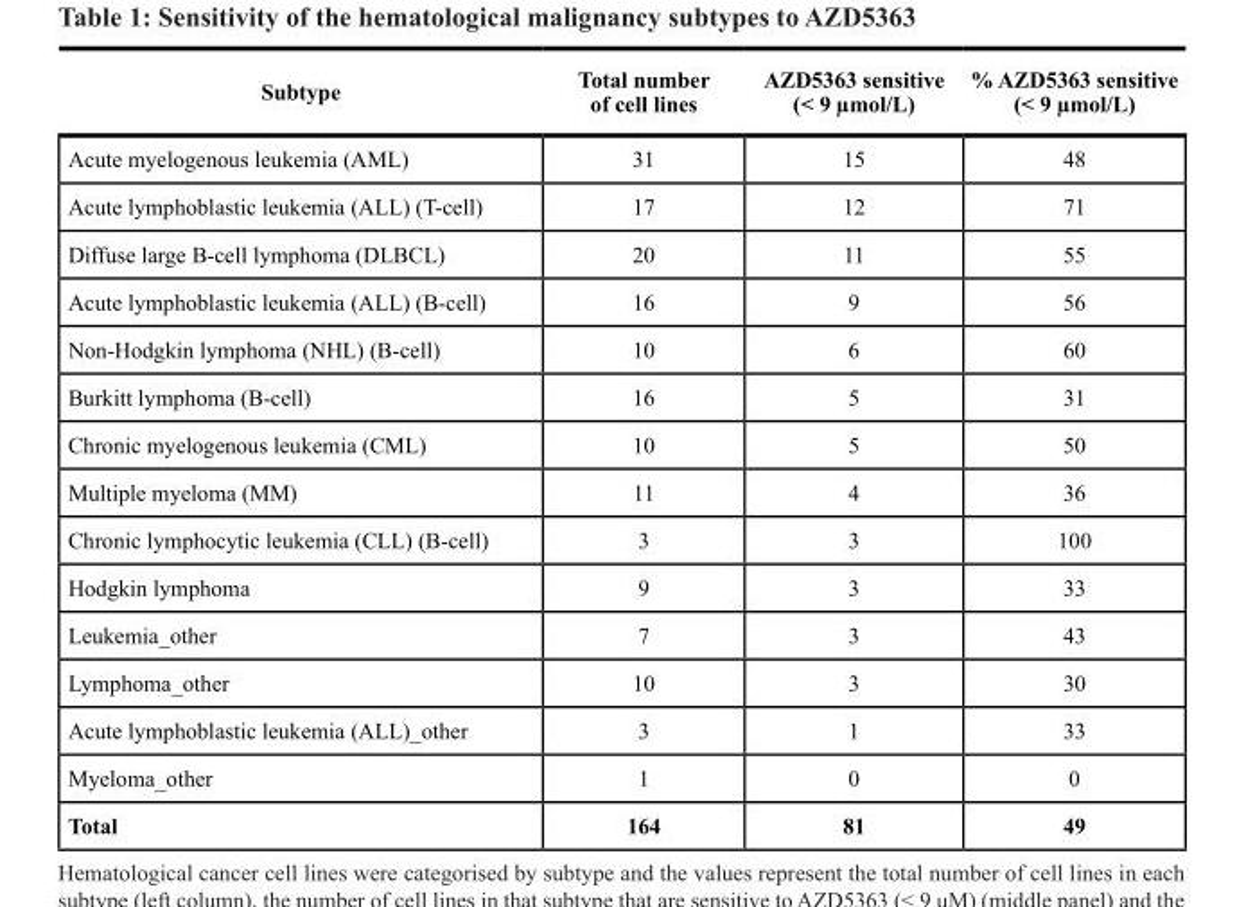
<table><thead><tr><td>Subtype</td><td>Total number of cell lines</td><td>AZD5363 sensitive (&lt; 9 µmol/L)</td><td>% AZD5363 sensitive (&lt; 9 µmol/L)</td></tr></thead><tbody><tr><td>Acute myelogenous leukemia (AML)</td><td>31</td><td>15</td><td>48</td></tr><tr><td>Acute lymphoblastic leukemia (ALL) (T-cell)</td><td>17</td><td>12</td><td>71</td></tr><tr><td>Diffuse large B-cell lymphoma (DLBCL)</td><td>20</td><td>11</td><td>55</td></tr><tr><td>Acute lymphoblastic leukemia (ALL) (B-cell)</td><td>16</td><td>9</td><td>56</td></tr><tr><td>Non-Hodgkin lymphoma (NHL) (B-cell)</td><td>10</td><td>6</td><td>60</td></tr><tr><td>Burkitt lymphoma (B-cell)</td><td>16</td><td>5</td><td>31</td></tr><tr><td>Chronic myelogenous leukemia (CML)</td><td>10</td><td>5</td><td>50</td></tr><tr><td>Multiple myeloma (MM)</td><td>11</td><td>4</td><td>36</td></tr><tr><td>Chronic lymphocytic leukemia (CLL) (B-cell)</td><td>3</td><td>3</td><td>100</td></tr><tr><td>Hodgkin lymphoma</td><td>9</td><td>3</td><td>33</td></tr><tr><td>Leukemia_other</td><td>7</td><td>3</td><td>43</td></tr><tr><td>Lymphoma_other</td><td>10</td><td>3</td><td>30</td></tr><tr><td>Acute lymphoblastic leukemia (ALL)_other</td><td>3</td><td>1</td><td>33</td></tr><tr><td>Myeloma_other</td><td>1</td><td>0</td><td>0</td></tr><tr><td>Total</td><td>164</td><td>81</td><td>49</td></tr></tbody></table>